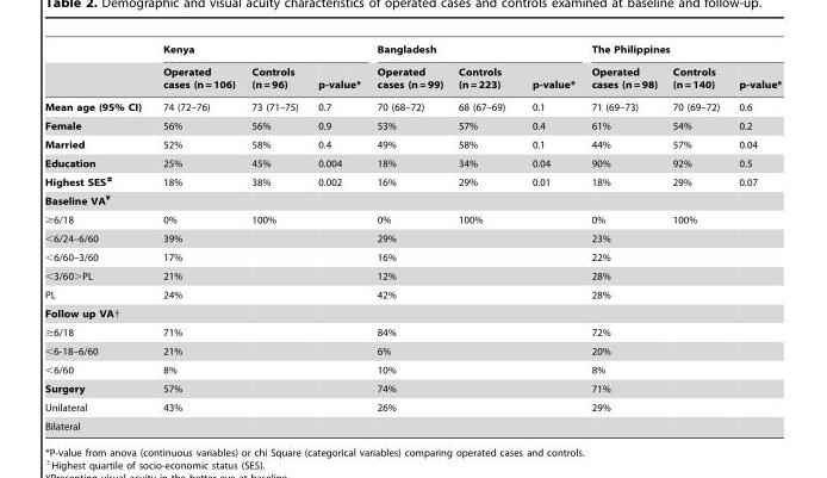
<table><thead><tr><td rowspan="2"></td><td colspan="3">Kenya</td><td colspan="3">Bangladesh</td><td colspan="3">The Philippines</td></tr><tr><td>Operated cases (n = 106)</td><td>Controls (n = 96)</td><td>p-value*</td><td>Operated cases (n = 99)</td><td>Controls (n = 223)</td><td>p-value*</td><td>Operated cases (n = 98)</td><td>Controls (n = 140)</td><td>p-value*</td></tr></thead><tbody><tr><td>Mean age (95% CI)</td><td>74 (72–76)</td><td>73 (71–75)</td><td>0.7</td><td>70 (68–72)</td><td>68 (67–69)</td><td>0.1</td><td>71 (69–73)</td><td>70 (69–72)</td><td>0.6</td></tr><tr><td>Female</td><td>56%</td><td>56%</td><td>0.9</td><td>53%</td><td>57%</td><td>0.4</td><td>61%</td><td>54%</td><td>0.2</td></tr><tr><td>Married</td><td>52%</td><td>58%</td><td>0.4</td><td>49%</td><td>58%</td><td>0.1</td><td>44%</td><td>57%</td><td>0.04</td></tr><tr><td>Education</td><td>25%</td><td>45%</td><td>0.004</td><td>18%</td><td>34%</td><td>0.04</td><td>90%</td><td>92%</td><td>0.5</td></tr><tr><td>Highest SES±</td><td>18%</td><td>38%</td><td>0.002</td><td>16%</td><td>29%</td><td>0.01</td><td>18%</td><td>29%</td><td>0.07</td></tr><tr><td colspan="10">Baseline VA¥</td></tr><tr><td>≥6/18</td><td>0%</td><td>100%</td><td></td><td>0%</td><td>100%</td><td></td><td>0%</td><td>100%</td><td></td></tr><tr><td>&lt;6/24–6/60</td><td>39%</td><td></td><td></td><td>29%</td><td></td><td></td><td>23%</td><td></td><td></td></tr><tr><td>&lt;6/60–3/60</td><td>17%</td><td></td><td></td><td>16%</td><td></td><td></td><td>22%</td><td></td><td></td></tr><tr><td>&lt;3/60&gt;PL</td><td>21%</td><td></td><td></td><td>12%</td><td></td><td></td><td>28%</td><td></td><td></td></tr><tr><td>PL</td><td>24%</td><td></td><td></td><td>42%</td><td></td><td></td><td>28%</td><td></td><td></td></tr><tr><td colspan="10">Follow up VA†</td></tr><tr><td>≥6/18</td><td>71%</td><td></td><td></td><td>84%</td><td></td><td></td><td>72%</td><td></td><td></td></tr><tr><td>&lt;6-18–6/60</td><td>21%</td><td></td><td></td><td>6%</td><td></td><td></td><td>20%</td><td></td><td></td></tr><tr><td>&lt;6/60</td><td>8%</td><td></td><td></td><td>10%</td><td></td><td></td><td>8%</td><td></td><td></td></tr><tr><td>Surgery</td><td>57%</td><td></td><td></td><td>74%</td><td></td><td></td><td>71%</td><td></td><td></td></tr><tr><td>Unilateral</td><td>43%</td><td></td><td></td><td>26%</td><td></td><td></td><td>29%</td><td></td><td></td></tr><tr><td>Bilateral</td><td></td><td></td><td></td><td></td><td></td><td></td><td></td><td></td><td></td></tr></tbody></table>